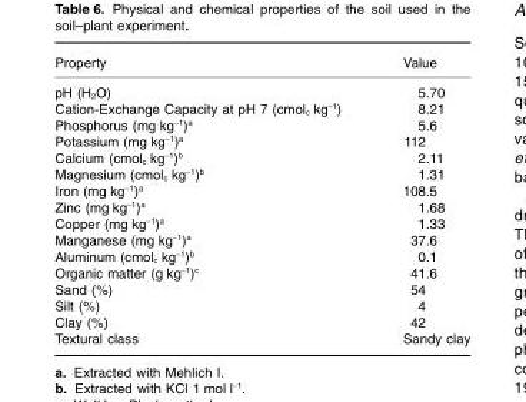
<table><thead><tr><td>Property</td><td>Value</td></tr></thead><tbody><tr><td>pH (H<sub>2</sub>O)</td><td>5.70</td></tr><tr><td>Cation-Exchange Capacity at pH 7 (cmol<sub>c</sub> kg<sup>−1</sup>)</td><td>8.21</td></tr><tr><td>Phosphorus (mg kg<sup>−1</sup>)<sup>a</sup></td><td>5.6</td></tr><tr><td>Potassium (mg kg<sup>−1</sup>)<sup>a</sup></td><td>112</td></tr><tr><td>Calcium (cmol<sub>c</sub> kg<sup>−1</sup>)<sup>b</sup></td><td>2.11</td></tr><tr><td>Magnesium (cmol<sub>c</sub> kg<sup>−1</sup>)<sup>b</sup></td><td>1.31</td></tr><tr><td>Iron (mg kg<sup>−1</sup>)<sup>a</sup></td><td>108.5</td></tr><tr><td>Zinc (mg kg<sup>−1</sup>)<sup>a</sup></td><td>1.68</td></tr><tr><td>Copper (mg kg<sup>−1</sup>)<sup>a</sup></td><td>1.33</td></tr><tr><td>Manganese (mg kg<sup>−1</sup>)<sup>a</sup></td><td>37.6</td></tr><tr><td>Aluminum (cmol<sub>c</sub> kg<sup>−1</sup>)<sup>b</sup></td><td>0.1</td></tr><tr><td>Organic matter (g kg<sup>−1</sup>)<sup>c</sup></td><td>41.6</td></tr><tr><td>Sand (%)</td><td>54</td></tr><tr><td>Silt (%)</td><td>4</td></tr><tr><td>Clay (%)</td><td>42</td></tr><tr><td>Textural class</td><td>Sandy clay</td></tr></tbody></table>